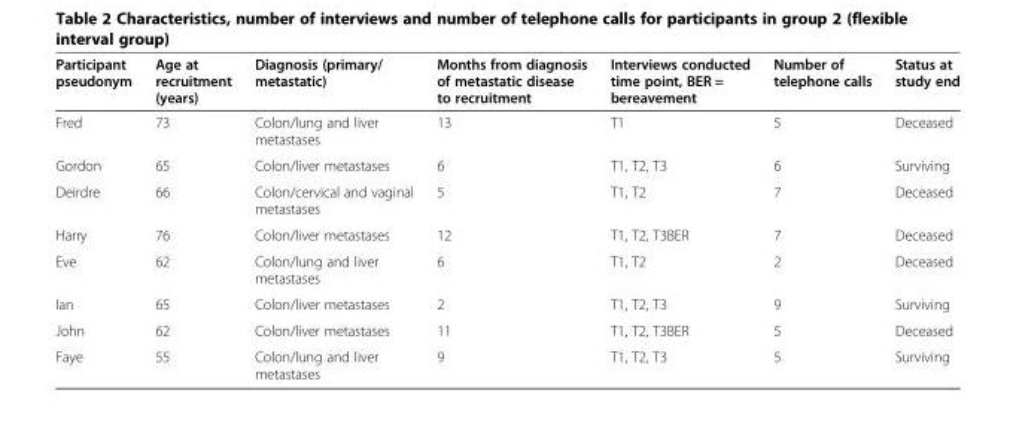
<table><thead><tr><td>Participant pseudonym</td><td>Age at recruitment (years)</td><td>Diagnosis (primary/ metastatic)</td><td>Months from diagnosis of metastatic disease to recruitment</td><td>Interviews conducted time point, BER = bereavement</td><td>Number of telephone calls</td><td>Status at study end</td></tr></thead><tbody><tr><td>Fred</td><td>73</td><td>Colon/lung and liver metastases</td><td>13</td><td>T1</td><td>5</td><td>Deceased</td></tr><tr><td>Gordon</td><td>65</td><td>Colon/liver metastases</td><td>6</td><td>T1, T2, T3</td><td>6</td><td>Surviving</td></tr><tr><td>Deirdre</td><td>66</td><td>Colon/cervical and vaginal metastases</td><td>5</td><td>T1, T2</td><td>7</td><td>Deceased</td></tr><tr><td>Harry</td><td>76</td><td>Colon/liver metastases</td><td>12</td><td>T1, T2, T3BER</td><td>7</td><td>Deceased</td></tr><tr><td>Eve</td><td>62</td><td>Colon/lung and liver metastases</td><td>6</td><td>T1, T2</td><td>2</td><td>Deceased</td></tr><tr><td>Ian</td><td>65</td><td>Colon/liver metastases</td><td>2</td><td>T1, T2, T3</td><td>9</td><td>Surviving</td></tr><tr><td>John</td><td>62</td><td>Colon/liver metastases</td><td>11</td><td>T1, T2, T3BER</td><td>5</td><td>Deceased</td></tr><tr><td>Faye</td><td>55</td><td>Colon/lung and liver metastases</td><td>9</td><td>T1, T2, T3</td><td>5</td><td>Surviving</td></tr></tbody></table>